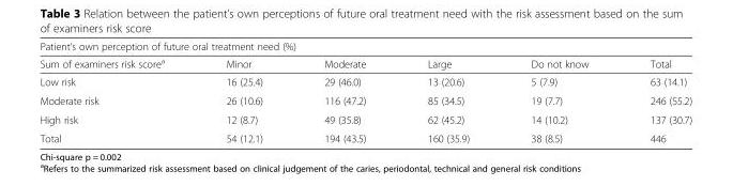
<table><thead><tr><td colspan="6">Patient’s own perception of future oral treatment need (%)</td></tr><tr><td>Sum of examiners risk score<sup>a</sup></td><td>Minor</td><td>Moderate</td><td>Large</td><td>Do not know</td><td>Total</td></tr></thead><tbody><tr><td>Low risk</td><td>16 (25.4)</td><td>29 (46.0)</td><td>13 (20.6)</td><td>5 (7.9)</td><td>63 (14.1)</td></tr><tr><td>Moderate risk</td><td>26 (10.6)</td><td>116 (47.2)</td><td>85 (34.5)</td><td>19 (7.7)</td><td>246 (55.2)</td></tr><tr><td>High risk</td><td>12 (8.7)</td><td>49 (35.8)</td><td>62 (45.2)</td><td>14 (10.2)</td><td>137 (30.7)</td></tr><tr><td>Total</td><td>54 (12.1)</td><td>194 (43.5)</td><td>160 (35.9)</td><td>38 (8.5)</td><td>446</td></tr></tbody></table>